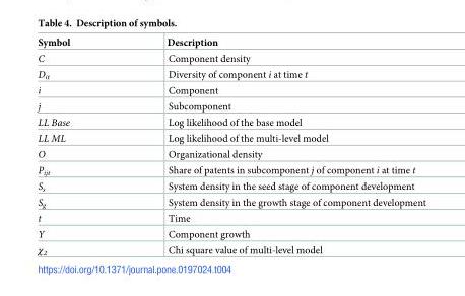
<table><thead><tr><td>Symbol</td><td>Description</td></tr></thead><tbody><tr><td>C</td><td>Component density</td></tr><tr><td>D<sub>it</sub></td><td>Diversity of component i at time t</td></tr><tr><td>i</td><td>Component</td></tr><tr><td>j</td><td>Subcomponent</td></tr><tr><td>LL Base</td><td>Log likelihood of the base model</td></tr><tr><td>LL ML</td><td>Log likelihood of the multi-level model</td></tr><tr><td>O</td><td>Organizational density</td></tr><tr><td>P<sub>ijt</sub></td><td>Share of patents in subcomponent j of component i at time t</td></tr><tr><td>S<sub>s</sub></td><td>System density in the seed stage of component development</td></tr><tr><td>S<sub>g</sub></td><td>System density in the growth stage of component development</td></tr><tr><td>t</td><td>Time</td></tr><tr><td>Y</td><td>Component growth</td></tr><tr><td>χ<sub>2</sub></td><td>Chi square value of multi-level model</td></tr></tbody></table>